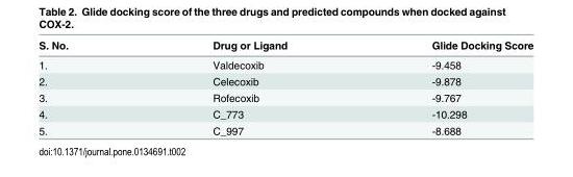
<table><thead><tr><td>S. No.</td><td>Drug or Ligand</td><td>Glide Docking Score</td></tr></thead><tbody><tr><td>1.</td><td>Valdecoxib</td><td>-9.458</td></tr><tr><td>2.</td><td>Celecoxib</td><td>-9.878</td></tr><tr><td>3.</td><td>Rofecoxib</td><td>-9.767</td></tr><tr><td>4.</td><td>C_773</td><td>-10.298</td></tr><tr><td>5.</td><td>C_997</td><td>-8.688</td></tr></tbody></table>